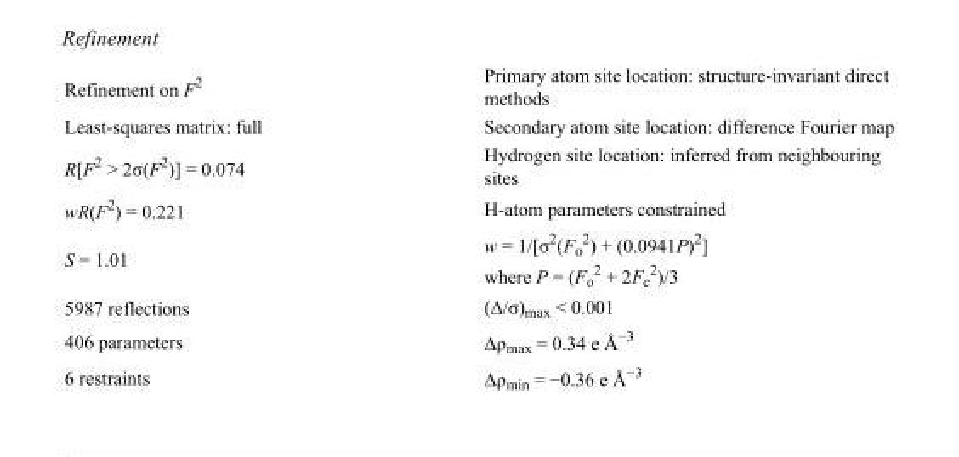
<table><tbody><tr><td>Refinement on F<sup>2</sup></td><td>Primary atom site location: structure-invariant direct methods</td></tr><tr><td>Least-squares matrix: full</td><td>Secondary atom site location: difference Fourier map</td></tr><tr><td>R[F<sup>2</sup> &gt; 2σ(F<sup>2</sup>)] = 0.074</td><td>Hydrogen site location: inferred from neighbouring sites</td></tr><tr><td>wR(F<sup>2</sup>) = 0.221</td><td>H-atom parameters constrained</td></tr><tr><td>S = 1.01</td><td>w = 1/[σ<sup>2</sup>(F<sub>o</sub> <sup>2</sup>) + (0.0941P)<sup>2</sup>] where P = (F<sub>o</sub> <sup>2</sup> + 2F<sub>c</sub> <sup>2</sup>)/3</td></tr><tr><td>5987 reflections</td><td>(Δ/σ)<sub>max</sub> &lt; 0.001</td></tr><tr><td>406 parameters</td><td>Δρ<sub>max</sub> = 0.34 e Å<sup>−3</sup></td></tr><tr><td>6 restraints</td><td>Δρ<sub>min</sub> = −0.36 e Å<sup>−3</sup></td></tr></tbody></table>